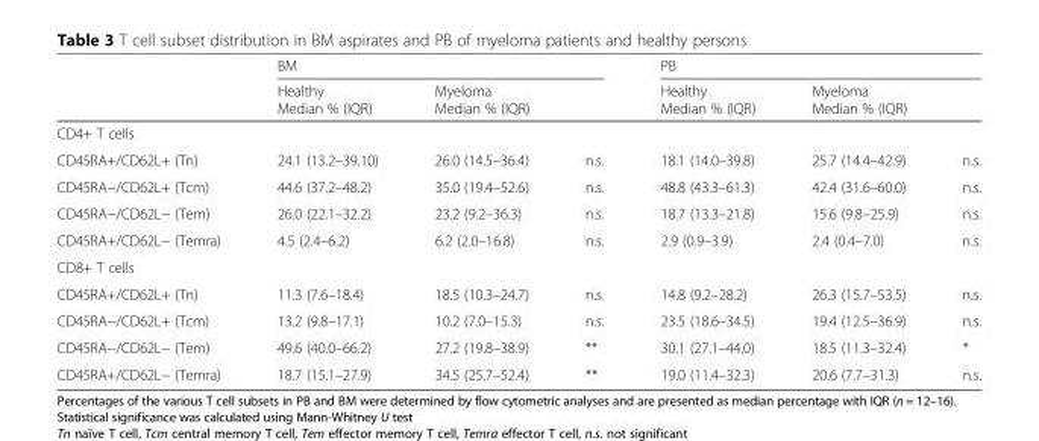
<table><thead><tr><td rowspan="2"></td><td colspan="3">BM</td><td colspan="3">PB</td></tr><tr><td>Healthy Median % (IQR)</td><td colspan="2">Myeloma Median % (IQR)</td><td>Healthy Median % (IQR)</td><td colspan="2">Myeloma Median % (IQR)</td></tr><tr><td colspan="7">CD4+ T cells</td></tr><tr><td>CD45RA+/CD62L+ (Tn)</td><td>24.1 (13.2–39.10)</td><td>26.0 (14.5–36.4)</td><td>n.s.</td><td>18.1 (14.0–39.8)</td><td>25.7 (14.4–42.9)</td><td>n.s.</td></tr></thead><tbody><tr><td>CD45RA−/CD62L+ (Tcm)</td><td>44.6 (37.2–48.2)</td><td>35.0 (19.4–52.6)</td><td>n.s.</td><td>48.8 (43.3–61.3)</td><td>42.4 (31.6–60.0)</td><td>n.s.</td></tr><tr><td>CD45RA−/CD62L− (Tem)</td><td>26.0 (22.1–32.2)</td><td>23.2 (9.2–36.3)</td><td>n.s.</td><td>18.7 (13.3–21.8)</td><td>15.6 (9.8–25.9)</td><td>n.s.</td></tr><tr><td>CD45RA+/CD62L− (Temra)</td><td>4.5 (2.4–6.2)</td><td>6.2 (2.0–16.8)</td><td>n.s.</td><td>2.9 (0.9–3.9)</td><td>2.4 (0.4–7.0)</td><td>n.s.</td></tr><tr><td colspan="7">CD8+ T cells</td></tr><tr><td>CD45RA+/CD62L+ (Tn)</td><td>11.3 (7.6–18.4)</td><td>18.5 (10.3–24.7)</td><td>n.s.</td><td>14.8 (9.2–28.2)</td><td>26.3 (15.7–53.5)</td><td>n.s.</td></tr><tr><td>CD45RA−/CD62L+ (Tcm)</td><td>13.2 (9.8–17.1)</td><td>10.2 (7.0–15.3)</td><td>n.s.</td><td>23.5 (18.6–34.5)</td><td>19.4 (12.5–36.9)</td><td>n.s.</td></tr><tr><td>CD45RA−/CD62L− (Tem)</td><td>49.6 (40.0–66.2)</td><td>27.2 (19.8–38.9)</td><td>**</td><td>30.1 (27.1–44.0)</td><td>18.5 (11.3–32.4)</td><td>*</td></tr><tr><td>CD45RA+/CD62L− (Temra)</td><td>18.7 (15.1–27.9)</td><td>34.5 (25.7–52.4)</td><td>**</td><td>19.0 (11.4–32.3)</td><td>20.6 (7.7–31.3)</td><td>n.s.</td></tr></tbody></table>